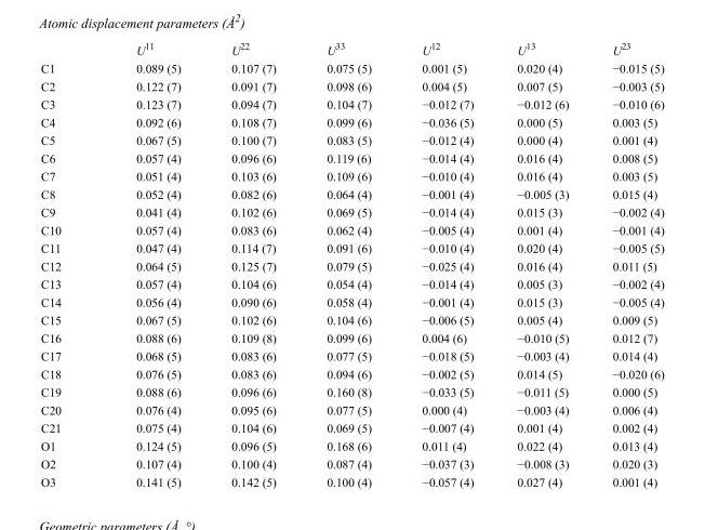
<table><thead><tr><td></td><td>U<sup>11</sup></td><td>U<sup>22</sup></td><td>U<sup>33</sup></td><td>U<sup>12</sup></td><td>U<sup>13</sup></td><td>U<sup>23</sup></td></tr></thead><tbody><tr><td>C1</td><td>0.089 (5)</td><td>0.107 (7)</td><td>0.075 (5)</td><td>0.001 (5)</td><td>0.020 (4)</td><td>−0.015 (5)</td></tr><tr><td>C2</td><td>0.122 (7)</td><td>0.091 (7)</td><td>0.098 (6)</td><td>0.004 (5)</td><td>0.007 (5)</td><td>−0.003 (5)</td></tr><tr><td>C3</td><td>0.123 (7)</td><td>0.094 (7)</td><td>0.104 (7)</td><td>−0.012 (7)</td><td>−0.012 (6)</td><td>−0.010 (6)</td></tr><tr><td>C4</td><td>0.092 (6)</td><td>0.108 (7)</td><td>0.099 (6)</td><td>−0.036 (5)</td><td>0.000 (5)</td><td>0.003 (5)</td></tr><tr><td>C5</td><td>0.067 (5)</td><td>0.100 (7)</td><td>0.083 (5)</td><td>−0.012 (4)</td><td>0.000 (4)</td><td>0.001 (4)</td></tr><tr><td>C6</td><td>0.057 (4)</td><td>0.096 (6)</td><td>0.119 (6)</td><td>−0.014 (4)</td><td>0.016 (4)</td><td>0.008 (5)</td></tr><tr><td>C7</td><td>0.051 (4)</td><td>0.103 (6)</td><td>0.109 (6)</td><td>−0.010 (4)</td><td>0.016 (4)</td><td>0.003 (5)</td></tr><tr><td>C8</td><td>0.052 (4)</td><td>0.082 (6)</td><td>0.064 (4)</td><td>−0.001 (4)</td><td>−0.005 (3)</td><td>0.015 (4)</td></tr><tr><td>C9</td><td>0.041 (4)</td><td>0.102 (6)</td><td>0.069 (5)</td><td>−0.014 (4)</td><td>0.015 (3)</td><td>−0.002 (4)</td></tr><tr><td>C10</td><td>0.057 (4)</td><td>0.083 (6)</td><td>0.062 (4)</td><td>−0.005 (4)</td><td>0.001 (4)</td><td>−0.001 (4)</td></tr><tr><td>C11</td><td>0.047 (4)</td><td>0.114 (7)</td><td>0.091 (6)</td><td>−0.010 (4)</td><td>0.020 (4)</td><td>−0.005 (5)</td></tr><tr><td>C12</td><td>0.064 (5)</td><td>0.125 (7)</td><td>0.079 (5)</td><td>−0.025 (4)</td><td>0.016 (4)</td><td>0.011 (5)</td></tr><tr><td>C13</td><td>0.057 (4)</td><td>0.104 (6)</td><td>0.054 (4)</td><td>−0.014 (4)</td><td>0.005 (3)</td><td>−0.002 (4)</td></tr><tr><td>C14</td><td>0.056 (4)</td><td>0.090 (6)</td><td>0.058 (4)</td><td>−0.001 (4)</td><td>0.015 (3)</td><td>−0.005 (4)</td></tr><tr><td>C15</td><td>0.067 (5)</td><td>0.102 (6)</td><td>0.104 (6)</td><td>−0.006 (5)</td><td>0.005 (4)</td><td>0.009 (5)</td></tr><tr><td>C16</td><td>0.088 (6)</td><td>0.109 (8)</td><td>0.099 (6)</td><td>0.004 (6)</td><td>−0.010 (5)</td><td>0.012 (7)</td></tr><tr><td>C17</td><td>0.068 (5)</td><td>0.083 (6)</td><td>0.077 (5)</td><td>−0.018 (5)</td><td>−0.003 (4)</td><td>0.014 (4)</td></tr><tr><td>C18</td><td>0.076 (5)</td><td>0.083 (6)</td><td>0.094 (6)</td><td>−0.002 (5)</td><td>0.014 (5)</td><td>−0.020 (6)</td></tr><tr><td>C19</td><td>0.088 (6)</td><td>0.096 (6)</td><td>0.160 (8)</td><td>−0.033 (5)</td><td>−0.011 (5)</td><td>0.000 (5)</td></tr><tr><td>C20</td><td>0.076 (4)</td><td>0.095 (6)</td><td>0.077 (5)</td><td>0.000 (4)</td><td>−0.003 (4)</td><td>0.006 (4)</td></tr><tr><td>C21</td><td>0.075 (4)</td><td>0.104 (6)</td><td>0.069 (5)</td><td>−0.007 (4)</td><td>0.001 (4)</td><td>0.002 (4)</td></tr><tr><td>O1</td><td>0.124 (5)</td><td>0.096 (5)</td><td>0.168 (6)</td><td>0.011 (4)</td><td>0.022 (4)</td><td>0.013 (4)</td></tr><tr><td>O2</td><td>0.107 (4)</td><td>0.100 (4)</td><td>0.087 (4)</td><td>−0.037 (3)</td><td>−0.008 (3)</td><td>0.020 (3)</td></tr><tr><td>O3</td><td>0.141 (5)</td><td>0.142 (5)</td><td>0.100 (4)</td><td>−0.057 (4)</td><td>0.027 (4)</td><td>0.001 (4)</td></tr></tbody></table>